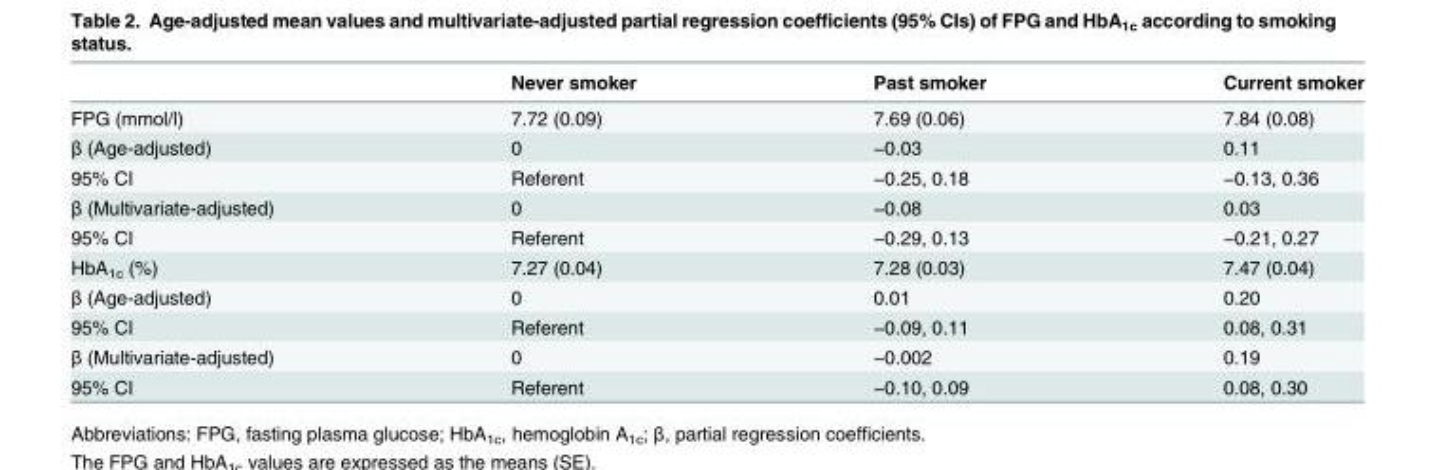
<table><thead><tr><td></td><td>Never smoker</td><td>Past smoker</td><td>Current smoker</td></tr></thead><tbody><tr><td>FPG (mmol/l)</td><td>7.72 (0.09)</td><td>7.69 (0.06)</td><td>7.84 (0.08)</td></tr><tr><td>β (Age-adjusted)</td><td>0</td><td>−0.03</td><td>0.11</td></tr><tr><td>95% CI</td><td>Referent</td><td>−0.25, 0.18</td><td>−0.13, 0.36</td></tr><tr><td>β (Multivariate-adjusted)</td><td>0</td><td>−0.08</td><td>0.03</td></tr><tr><td>95% CI</td><td>Referent</td><td>−0.29, 0.13</td><td>−0.21, 0.27</td></tr><tr><td>HbA<sub>1c</sub> (%)</td><td>7.27 (0.04)</td><td>7.28 (0.03)</td><td>7.47 (0.04)</td></tr><tr><td>β (Age-adjusted)</td><td>0</td><td>0.01</td><td>0.20</td></tr><tr><td>95% CI</td><td>Referent</td><td>−0.09, 0.11</td><td>0.08, 0.31</td></tr><tr><td>β (Multivariate-adjusted)</td><td>0</td><td>−0.002</td><td>0.19</td></tr><tr><td>95% CI</td><td>Referent</td><td>−0.10, 0.09</td><td>0.08, 0.30</td></tr></tbody></table>